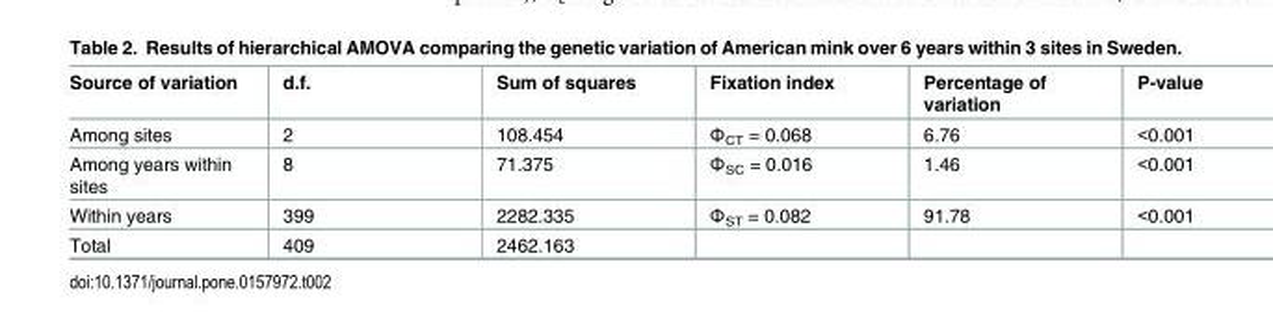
<table><thead><tr><td>Source of variation</td><td>d.f.</td><td>Sum of squares</td><td>Fixation index</td><td>Percentage of variation</td><td>P-value</td></tr></thead><tbody><tr><td>Among sites</td><td>2</td><td>108.454</td><td>Φ<sub>CT</sub> = 0.068</td><td>6.76</td><td>&lt;0.001</td></tr><tr><td>Among years within sites</td><td>8</td><td>71.375</td><td>Φ<sub>SC</sub> = 0.016</td><td>1.46</td><td>&lt;0.001</td></tr><tr><td>Within years</td><td>399</td><td>2282.335</td><td>Φ<sub>ST</sub> = 0.082</td><td>91.78</td><td>&lt;0.001</td></tr><tr><td>Total</td><td>409</td><td>2462.163</td><td></td><td></td><td></td></tr></tbody></table>